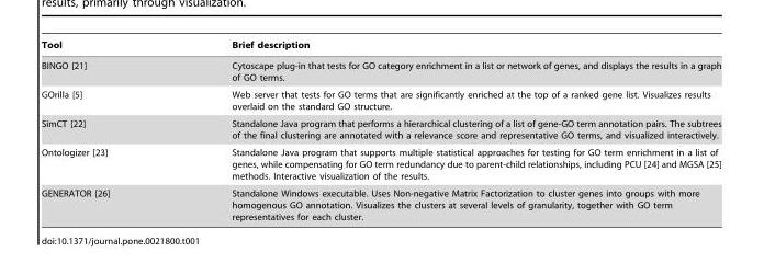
<table><thead><tr><td>Tool</td><td>Brief description</td></tr></thead><tbody><tr><td>BINGO [21]</td><td>Cytoscape plug-in that tests for GO category enrichment in a list or network of genes, and displays the results in a graph of GO terms.</td></tr><tr><td>GOrilla [5]</td><td>Web server that tests for GO terms that are significantly enriched at the top of a ranked gene list. Visualizes results overlaid on the standard GO structure.</td></tr><tr><td>SimCT [22]</td><td>Standalone Java program that performs a hierarchical clustering of a list of gene-GO term annotation pairs. The subtrees of the final clustering are annotated with a relevance score and representative GO terms, and visualized interactively.</td></tr><tr><td>Ontologizer [23]</td><td>Standalone Java program that supports multiple statistical approaches for testing for GO term enrichment in a list of genes, while compensating for GO term redundancy due to parent-child relationships, including PCU [24] and MGSA [25] methods. Interactive visualization of the results.</td></tr><tr><td>GENERATOR [26]</td><td>Standalone Windows executable. Uses Non-negative Matrix Factorization to cluster genes into groups with more homogenous GO annotation. Visualizes the clusters at several levels of granularity, together with GO term representatives for each cluster.</td></tr></tbody></table>